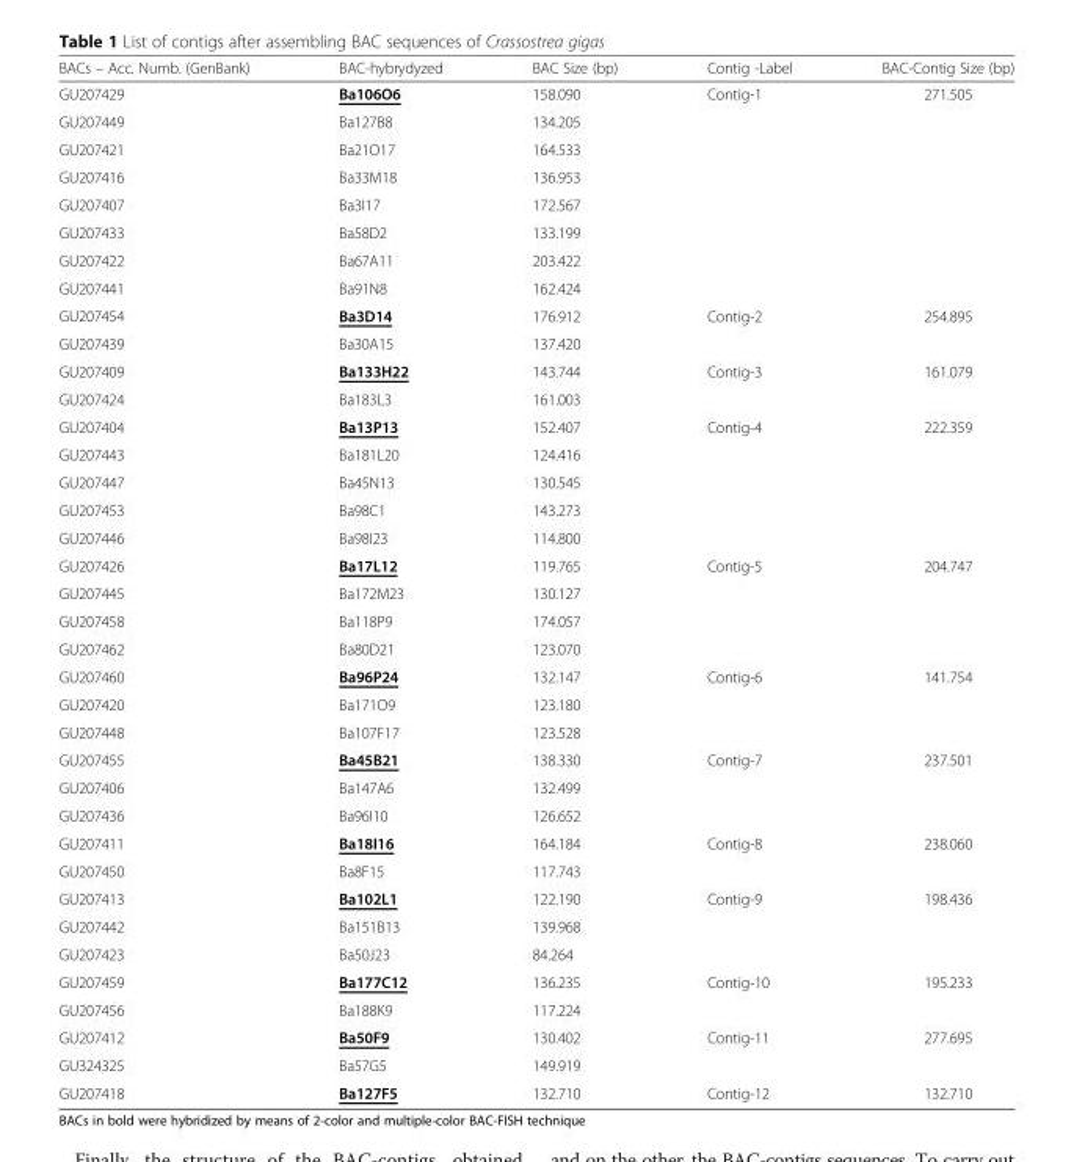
<table><thead><tr><td>BACs – Acc. Numb. (GenBank)</td><td>BAC-hybrydyzed</td><td>BAC Size (bp)</td><td>Contig -Label</td><td>BAC-Contig Size (bp)</td></tr></thead><tbody><tr><td>GU207429</td><td>Ba106O6</td><td>158.090</td><td rowspan="8">Contig-1</td><td rowspan="8">271.505</td></tr><tr><td>GU207449</td><td>Ba127B8</td><td>134.205</td></tr><tr><td>GU207421</td><td>Ba21O17</td><td>164.533</td></tr><tr><td>GU207416</td><td>Ba33M18</td><td>136.953</td></tr><tr><td>GU207407</td><td>Ba3I17</td><td>172.567</td></tr><tr><td>GU207433</td><td>Ba58D2</td><td>133.199</td></tr><tr><td>GU207422</td><td>Ba67A11</td><td>203.422</td></tr><tr><td>GU207441</td><td>Ba91N8</td><td>162.424</td></tr><tr><td>GU207454</td><td>Ba3D14</td><td>176.912</td><td rowspan="2">Contig-2</td><td rowspan="2">254.895</td></tr><tr><td>GU207439</td><td>Ba30A15</td><td>137.420</td></tr><tr><td>GU207409</td><td>Ba133H22</td><td>143.744</td><td rowspan="2">Contig-3</td><td rowspan="2">161.079</td></tr><tr><td>GU207424</td><td>Ba183L3</td><td>161.003</td></tr><tr><td>GU207404</td><td>Ba13P13</td><td>152.407</td><td rowspan="5">Contig-4</td><td rowspan="5">222.359</td></tr><tr><td>GU207443</td><td>Ba181L20</td><td>124.416</td></tr><tr><td>GU207447</td><td>Ba45N13</td><td>130.545</td></tr><tr><td>GU207453</td><td>Ba98C1</td><td>143.273</td></tr><tr><td>GU207446</td><td>Ba98I23</td><td>114.800</td></tr><tr><td>GU207426</td><td>Ba17L12</td><td>119.765</td><td rowspan="4">Contig-5</td><td rowspan="4">204.747</td></tr><tr><td>GU207445</td><td>Ba172M23</td><td>130.127</td></tr><tr><td>GU207458</td><td>Ba118P9</td><td>174.057</td></tr><tr><td>GU207462</td><td>Ba80D21</td><td>123.070</td></tr><tr><td>GU207460</td><td>Ba96P24</td><td>132.147</td><td rowspan="3">Contig-6</td><td rowspan="3">141.754</td></tr><tr><td>GU207420</td><td>Ba171O9</td><td>123.180</td></tr><tr><td>GU207448</td><td>Ba107F17</td><td>123.528</td></tr><tr><td>GU207455</td><td>Ba45B21</td><td>138.330</td><td rowspan="3">Contig-7</td><td rowspan="3">237.501</td></tr><tr><td>GU207406</td><td>Ba147A6</td><td>132.499</td></tr><tr><td>GU207436</td><td>Ba96I10</td><td>126.652</td></tr><tr><td>GU207411</td><td>Ba18I16</td><td>164.184</td><td rowspan="2">Contig-8</td><td rowspan="2">238.060</td></tr><tr><td>GU207450</td><td>Ba8F15</td><td>117.743</td></tr><tr><td>GU207413</td><td>Ba102L1</td><td>122.190</td><td rowspan="3">Contig-9</td><td rowspan="3">198.436</td></tr><tr><td>GU207442</td><td>Ba151B13</td><td>139.968</td></tr><tr><td>GU207423</td><td>Ba50J23</td><td>84.264</td></tr><tr><td>GU207459</td><td>Ba177C12</td><td>136.235</td><td rowspan="2">Contig-10</td><td rowspan="2">195.233</td></tr><tr><td>GU207456</td><td>Ba188K9</td><td>117.224</td></tr><tr><td>GU207412</td><td>Ba50F9</td><td>130.402</td><td rowspan="2">Contig-11</td><td rowspan="2">277.695</td></tr><tr><td>GU324325</td><td>Ba57G5</td><td>149.919</td></tr><tr><td>GU207418</td><td>Ba127F5</td><td>132.710</td><td>Contig-12</td><td>132.710</td></tr></tbody></table>